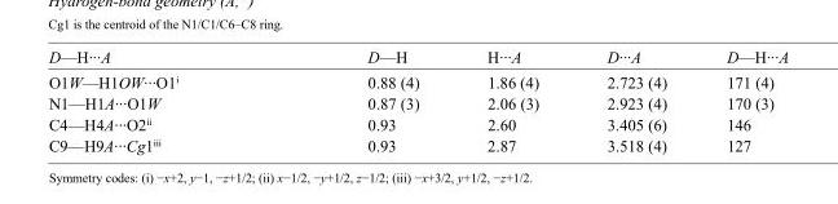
<table><tbody><tr><td>D—H···A</td><td>D—H</td><td>H···A</td><td>D···A</td><td>D—H···A</td></tr><tr><td>O1W—H1OW···O1<sup>i</sup></td><td>0.88 (4)</td><td>1.86 (4)</td><td>2.723 (4)</td><td>171 (4)</td></tr><tr><td>N1—H1A···O1W</td><td>0.87 (3)</td><td>2.06 (3)</td><td>2.923 (4)</td><td>170 (3)</td></tr><tr><td>C4—H4A···O2<sup>ii</sup></td><td>0.93</td><td>2.60</td><td>3.405 (6)</td><td>146</td></tr><tr><td>C9—H9A···Cg1<sup>iii</sup></td><td>0.93</td><td>2.87</td><td>3.518 (4)</td><td>127</td></tr></tbody></table>